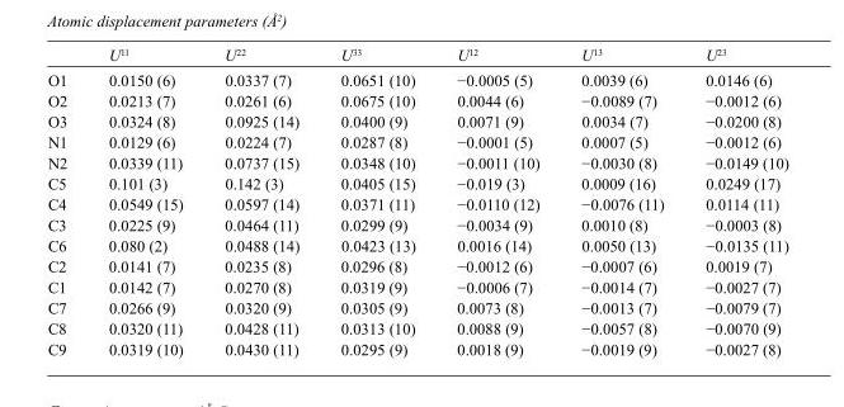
<table><thead><tr><td></td><td>U<sup>11</sup></td><td>U<sup>22</sup></td><td>U<sup>33</sup></td><td>U<sup>12</sup></td><td>U<sup>13</sup></td><td>U<sup>23</sup></td></tr></thead><tbody><tr><td>O1</td><td>0.0150 (6)</td><td>0.0337 (7)</td><td>0.0651 (10)</td><td>−0.0005 (5)</td><td>0.0039 (6)</td><td>0.0146 (6)</td></tr><tr><td>O2</td><td>0.0213 (7)</td><td>0.0261 (6)</td><td>0.0675 (10)</td><td>0.0044 (6)</td><td>−0.0089 (7)</td><td>−0.0012 (6)</td></tr><tr><td>O3</td><td>0.0324 (8)</td><td>0.0925 (14)</td><td>0.0400 (9)</td><td>0.0071 (9)</td><td>0.0034 (7)</td><td>−0.0200 (8)</td></tr><tr><td>N1</td><td>0.0129 (6)</td><td>0.0224 (7)</td><td>0.0287 (8)</td><td>−0.0001 (5)</td><td>0.0007 (5)</td><td>−0.0012 (6)</td></tr><tr><td>N2</td><td>0.0339 (11)</td><td>0.0737 (15)</td><td>0.0348 (10)</td><td>−0.0011 (10)</td><td>−0.0030 (8)</td><td>−0.0149 (10)</td></tr><tr><td>C5</td><td>0.101 (3)</td><td>0.142 (3)</td><td>0.0405 (15)</td><td>−0.019 (3)</td><td>0.0009 (16)</td><td>0.0249 (17)</td></tr><tr><td>C4</td><td>0.0549 (15)</td><td>0.0597 (14)</td><td>0.0371 (11)</td><td>−0.0110 (12)</td><td>−0.0076 (11)</td><td>0.0114 (11)</td></tr><tr><td>C3</td><td>0.0225 (9)</td><td>0.0464 (11)</td><td>0.0299 (9)</td><td>−0.0034 (9)</td><td>0.0010 (8)</td><td>−0.0003 (8)</td></tr><tr><td>C6</td><td>0.080 (2)</td><td>0.0488 (14)</td><td>0.0423 (13)</td><td>0.0016 (14)</td><td>0.0050 (13)</td><td>−0.0135 (11)</td></tr><tr><td>C2</td><td>0.0141 (7)</td><td>0.0235 (8)</td><td>0.0296 (8)</td><td>−0.0012 (6)</td><td>−0.0007 (6)</td><td>0.0019 (7)</td></tr><tr><td>C1</td><td>0.0142 (7)</td><td>0.0270 (8)</td><td>0.0319 (9)</td><td>−0.0006 (7)</td><td>−0.0014 (7)</td><td>−0.0027 (7)</td></tr><tr><td>C7</td><td>0.0266 (9)</td><td>0.0320 (9)</td><td>0.0305 (9)</td><td>0.0073 (8)</td><td>−0.0013 (7)</td><td>−0.0079 (7)</td></tr><tr><td>C8</td><td>0.0320 (11)</td><td>0.0428 (11)</td><td>0.0313 (10)</td><td>0.0088 (9)</td><td>−0.0057 (8)</td><td>−0.0070 (9)</td></tr><tr><td>C9</td><td>0.0319 (10)</td><td>0.0430 (11)</td><td>0.0295 (9)</td><td>0.0018 (9)</td><td>−0.0019 (9)</td><td>−0.0027 (8)</td></tr></tbody></table>